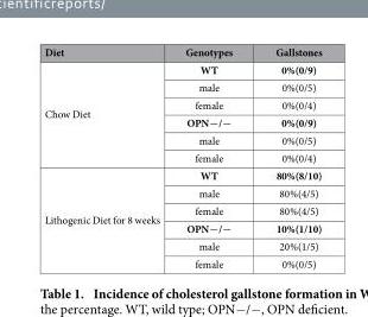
<table><thead><tr><td>Diet</td><td>Genotypes</td><td>Gallstones</td></tr></thead><tbody><tr><td rowspan="6">Chow Diet</td><td>WT</td><td>0%(0/9)</td></tr><tr><td>male</td><td>0%(0/5)</td></tr><tr><td>female</td><td>0%(0/4)</td></tr><tr><td>OPN−/−</td><td>0%(0/9)</td></tr><tr><td>male</td><td>0%(0/5)</td></tr><tr><td>female</td><td>0%(0/4)</td></tr><tr><td rowspan="6">Lithogenic Diet for 8 weeks</td><td>WT</td><td>80%(8/10)</td></tr><tr><td>male</td><td>80%(4/5)</td></tr><tr><td>female</td><td>80%(4/5)</td></tr><tr><td>OPN−/−</td><td>10%(1/10)</td></tr><tr><td>male</td><td>20%(1/5)</td></tr><tr><td>female</td><td>0%(0/5)</td></tr></tbody></table>